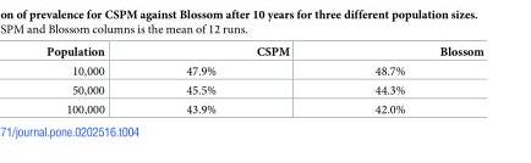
<table><thead><tr><td>Population</td><td>CSPM</td><td>Blossom</td></tr></thead><tbody><tr><td>10,000</td><td>47.9%</td><td>48.7%</td></tr><tr><td>50,000</td><td>45.5%</td><td>44.3%</td></tr><tr><td>100,000</td><td>43.9%</td><td>42.0%</td></tr></tbody></table>